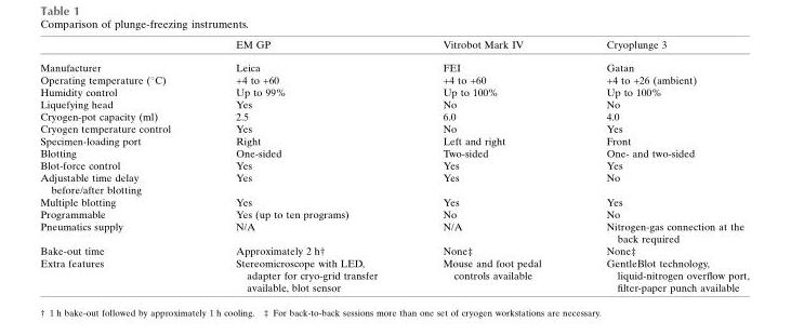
<table><thead><tr><td></td><td>EM GP</td><td>Vitrobot Mark IV</td><td>Cryoplunge 3</td></tr></thead><tbody><tr><td>Manufacturer</td><td>Leica</td><td>FEI</td><td>Gatan</td></tr><tr><td>Operating temperature (°C)</td><td>+4 to +60</td><td>+4 to +60</td><td>+4 to +26 (ambient)</td></tr><tr><td>Humidity control</td><td>Up to 99%</td><td>Up to 100%</td><td>Up to 100%</td></tr><tr><td>Liquefying head</td><td>Yes</td><td>No</td><td>No</td></tr><tr><td>Cryogen-pot capacity (ml)</td><td>2.5</td><td>6.0</td><td>4.0</td></tr><tr><td>Cryogen temperature control</td><td>Yes</td><td>No</td><td>Yes</td></tr><tr><td>Specimen-loading port</td><td>Right</td><td>Left and right</td><td>Front</td></tr><tr><td>Blotting</td><td>One-sided</td><td>Two-sided</td><td>One- and two-sided</td></tr><tr><td>Blot-force control</td><td>Yes</td><td>Yes</td><td>Yes</td></tr><tr><td>Adjustable time delay before/after blotting</td><td>Yes</td><td>Yes</td><td>No</td></tr><tr><td>Multiple blotting</td><td>Yes</td><td>Yes</td><td>Yes</td></tr><tr><td>Programmable</td><td>Yes (up to ten programs)</td><td>No</td><td>No</td></tr><tr><td>Pneumatics supply</td><td>N/A</td><td>N/A</td><td>Nitrogen-gas connection at the back required</td></tr><tr><td>Bake-out time</td><td>Approximately 2 h†</td><td>None‡</td><td>None‡</td></tr><tr><td>Extra features</td><td>Stereomicroscope with LED, adapter for cryo-grid transfer available, blot sensor</td><td>Mouse and foot pedal controls available</td><td>GentleBlot technology, liquid-nitrogen overflow port, filter-paper punch available</td></tr></tbody></table>